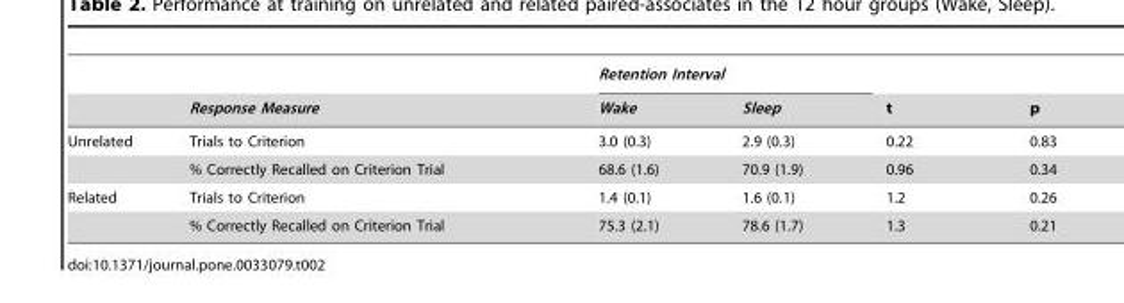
<table><thead><tr><td rowspan="2"></td><td rowspan="2">Response Measure</td><td colspan="2">Retention Interval</td><td rowspan="2">t</td><td rowspan="2">p</td></tr><tr><td>Wake</td><td>Sleep</td></tr></thead><tbody><tr><td rowspan="2">Unrelated</td><td>Trials to Criterion</td><td>3.0 (0.3)</td><td>2.9 (0.3)</td><td>0.22</td><td>0.83</td></tr><tr><td>% Correctly Recalled on Criterion Trial</td><td>68.6 (1.6)</td><td>70.9 (1.9)</td><td>0.96</td><td>0.34</td></tr><tr><td rowspan="2">Related</td><td>Trials to Criterion</td><td>1.4 (0.1)</td><td>1.6 (0.1)</td><td>1.2</td><td>0.26</td></tr><tr><td>% Correctly Recalled on Criterion Trial</td><td>75.3 (2.1)</td><td>78.6 (1.7)</td><td>1.3</td><td>0.21</td></tr></tbody></table>